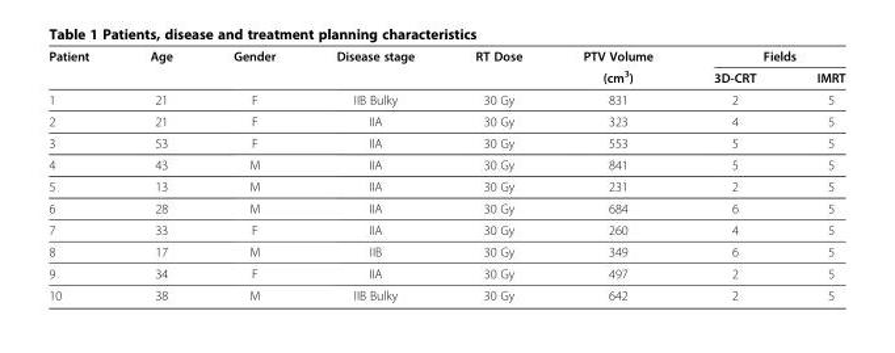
<table><thead><tr><td rowspan="2">Patient</td><td rowspan="2">Age</td><td rowspan="2">Gender</td><td rowspan="2">Disease stage</td><td rowspan="2">RT Dose</td><td rowspan="2">PTV Volume (cm<sup>3</sup>)</td><td colspan="2">Fields</td></tr><tr><td>3D-CRT</td><td>IMRT</td></tr></thead><tbody><tr><td>1</td><td>21</td><td>F</td><td>IIB Bulky</td><td>30 Gy</td><td>831</td><td>2</td><td>5</td></tr><tr><td>2</td><td>21</td><td>F</td><td>IIA</td><td>30 Gy</td><td>323</td><td>4</td><td>5</td></tr><tr><td>3</td><td>53</td><td>F</td><td>IIA</td><td>30 Gy</td><td>553</td><td>5</td><td>5</td></tr><tr><td>4</td><td>43</td><td>M</td><td>IIA</td><td>30 Gy</td><td>841</td><td>5</td><td>5</td></tr><tr><td>5</td><td>13</td><td>M</td><td>IIA</td><td>30 Gy</td><td>231</td><td>2</td><td>5</td></tr><tr><td>6</td><td>28</td><td>M</td><td>IIA</td><td>30 Gy</td><td>684</td><td>6</td><td>5</td></tr><tr><td>7</td><td>33</td><td>F</td><td>IIA</td><td>30 Gy</td><td>260</td><td>4</td><td>5</td></tr><tr><td>8</td><td>17</td><td>M</td><td>IIB</td><td>30 Gy</td><td>349</td><td>6</td><td>5</td></tr><tr><td>9</td><td>34</td><td>F</td><td>IIA</td><td>30 Gy</td><td>497</td><td>2</td><td>5</td></tr><tr><td>10</td><td>38</td><td>M</td><td>IIB Bulky</td><td>30 Gy</td><td>642</td><td>2</td><td>5</td></tr></tbody></table>